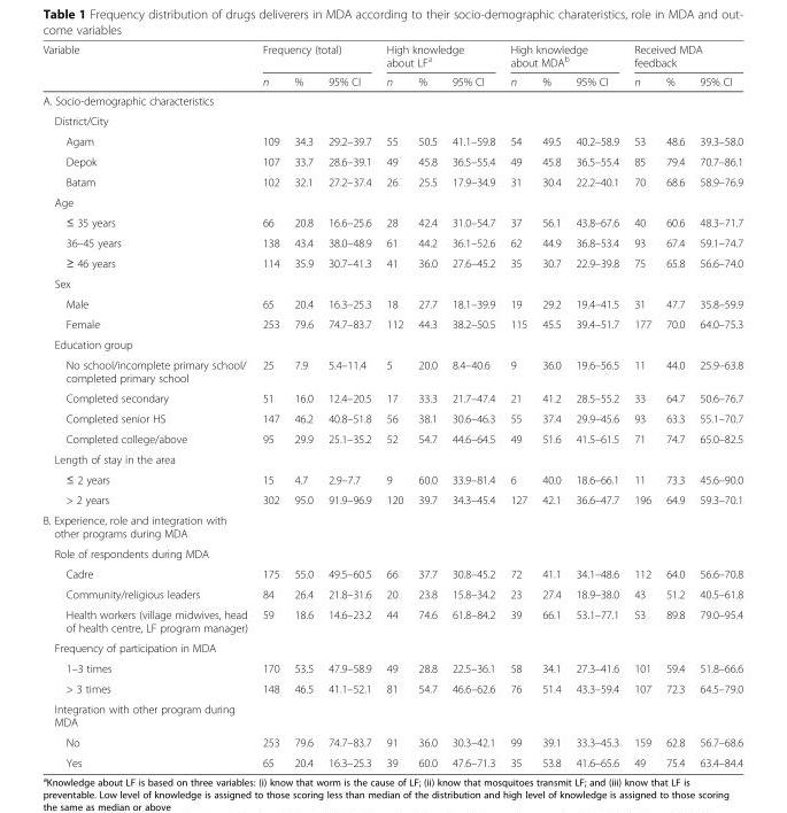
<table><thead><tr><td rowspan="2">Variable</td><td colspan="3">Frequency (total)</td><td colspan="3">High knowledge about LF<sup>a</sup></td><td colspan="3">High knowledge about MDA<sup>b</sup></td><td colspan="3">Received MDA feedback</td></tr><tr><td>n</td><td>%</td><td>95% CI</td><td>n</td><td>%</td><td>95% CI</td><td>n</td><td>%</td><td>95% CI</td><td>n</td><td>%</td><td>95% CI</td></tr></thead><tbody><tr><td colspan="13">A. Socio-demographic characteristics</td></tr><tr><td colspan="13">District/City</td></tr><tr><td>Agam</td><td>109</td><td>34.3</td><td>29.2–39.7</td><td>55</td><td>50.5</td><td>41.1–59.8</td><td>54</td><td>49.5</td><td>40.2–58.9</td><td>53</td><td>48.6</td><td>39.3–58.0</td></tr><tr><td>Depok</td><td>107</td><td>33.7</td><td>28.6–39.1</td><td>49</td><td>45.8</td><td>36.5–55.4</td><td>49</td><td>45.8</td><td>36.5–55.4</td><td>85</td><td>79.4</td><td>70.7–86.1</td></tr><tr><td>Batam</td><td>102</td><td>32.1</td><td>27.2–37.4</td><td>26</td><td>25.5</td><td>17.9–34.9</td><td>31</td><td>30.4</td><td>22.2–40.1</td><td>70</td><td>68.6</td><td>58.9–76.9</td></tr><tr><td colspan="13">Age</td></tr><tr><td>≤ 35 years</td><td>66</td><td>20.8</td><td>16.6–25.6</td><td>28</td><td>42.4</td><td>31.0–54.7</td><td>37</td><td>56.1</td><td>43.8–67.6</td><td>40</td><td>60.6</td><td>48.3–71.7</td></tr><tr><td>36–45 years</td><td>138</td><td>43.4</td><td>38.0–48.9</td><td>61</td><td>44.2</td><td>36.1–52.6</td><td>62</td><td>44.9</td><td>36.8–53.4</td><td>93</td><td>67.4</td><td>59.1–74.7</td></tr><tr><td>≥ 46 years</td><td>114</td><td>35.9</td><td>30.7–41.3</td><td>41</td><td>36.0</td><td>27.6–45.2</td><td>35</td><td>30.7</td><td>22.9–39.8</td><td>75</td><td>65.8</td><td>56.6–74.0</td></tr><tr><td colspan="13">Sex</td></tr><tr><td>Male</td><td>65</td><td>20.4</td><td>16.3–25.3</td><td>18</td><td>27.7</td><td>18.1–39.9</td><td>19</td><td>29.2</td><td>19.4–41.5</td><td>31</td><td>47.7</td><td>35.8–59.9</td></tr><tr><td>Female</td><td>253</td><td>79.6</td><td>74.7–83.7</td><td>112</td><td>44.3</td><td>38.2–50.5</td><td>115</td><td>45.5</td><td>39.4–51.7</td><td>177</td><td>70.0</td><td>64.0–75.3</td></tr><tr><td colspan="13">Education group</td></tr><tr><td>No school/incomplete primary school/ completed primary school</td><td>25</td><td>7.9</td><td>5.4–11.4</td><td>5</td><td>20.0</td><td>8.4–40.6</td><td>9</td><td>36.0</td><td>19.6–56.5</td><td>11</td><td>44.0</td><td>25.9–63.8</td></tr><tr><td>Completed secondary</td><td>51</td><td>16.0</td><td>12.4–20.5</td><td>17</td><td>33.3</td><td>21.7–47.4</td><td>21</td><td>41.2</td><td>28.5–55.2</td><td>33</td><td>64.7</td><td>50.6–76.7</td></tr><tr><td>Completed senior HS</td><td>147</td><td>46.2</td><td>40.8–51.8</td><td>56</td><td>38.1</td><td>30.6–46.3</td><td>55</td><td>37.4</td><td>29.9–45.6</td><td>93</td><td>63.3</td><td>55.1–70.7</td></tr><tr><td>Completed college/above</td><td>95</td><td>29.9</td><td>25.1–35.2</td><td>52</td><td>54.7</td><td>44.6–64.5</td><td>49</td><td>51.6</td><td>41.5–61.5</td><td>71</td><td>74.7</td><td>65.0–82.5</td></tr><tr><td colspan="13">Length of stay in the area</td></tr><tr><td>≤ 2 years</td><td>15</td><td>4.7</td><td>2.9–7.7</td><td>9</td><td>60.0</td><td>33.9–81.4</td><td>6</td><td>40.0</td><td>18.6–66.1</td><td>11</td><td>73.3</td><td>45.6–90.0</td></tr><tr><td>&gt; 2 years</td><td>302</td><td>95.0</td><td>91.9–96.9</td><td>120</td><td>39.7</td><td>34.3–45.4</td><td>127</td><td>42.1</td><td>36.6–47.7</td><td>196</td><td>64.9</td><td>59.3–70.1</td></tr><tr><td colspan="13">B. Experience, role and integration with other programs during MDA</td></tr><tr><td colspan="13">Role of respondents during MDA</td></tr><tr><td>Cadre</td><td>175</td><td>55.0</td><td>49.5–60.5</td><td>66</td><td>37.7</td><td>30.8–45.2</td><td>72</td><td>41.1</td><td>34.1–48.6</td><td>112</td><td>64.0</td><td>56.6–70.8</td></tr><tr><td>Community/religious leaders</td><td>84</td><td>26.4</td><td>21.8–31.6</td><td>20</td><td>23.8</td><td>15.8–34.2</td><td>23</td><td>27.4</td><td>18.9–38.0</td><td>43</td><td>51.2</td><td>40.5–61.8</td></tr><tr><td>Health workers (village midwives, head of health centre, LF program manager)</td><td>59</td><td>18.6</td><td>14.6–23.2</td><td>44</td><td>74.6</td><td>61.8–84.2</td><td>39</td><td>66.1</td><td>53.1–77.1</td><td>53</td><td>89.8</td><td>79.0–95.4</td></tr><tr><td colspan="13">Frequency of participation in MDA</td></tr><tr><td>1–3 times</td><td>170</td><td>53.5</td><td>47.9–58.9</td><td>49</td><td>28.8</td><td>22.5–36.1</td><td>58</td><td>34.1</td><td>27.3–41.6</td><td>101</td><td>59.4</td><td>51.8–66.6</td></tr><tr><td>&gt; 3 times</td><td>148</td><td>46.5</td><td>41.1–52.1</td><td>81</td><td>54.7</td><td>46.6–62.6</td><td>76</td><td>51.4</td><td>43.3–59.4</td><td>107</td><td>72.3</td><td>64.5–79.0</td></tr><tr><td colspan="13">Integration with other program during MDA</td></tr><tr><td>No</td><td>253</td><td>79.6</td><td>74.7–83.7</td><td>91</td><td>36.0</td><td>30.3–42.1</td><td>99</td><td>39.1</td><td>33.3–45.3</td><td>159</td><td>62.8</td><td>56.7–68.6</td></tr><tr><td>Yes</td><td>65</td><td>20.4</td><td>16.3–25.3</td><td>39</td><td>60.0</td><td>47.6–71.3</td><td>35</td><td>53.8</td><td>41.6–65.6</td><td>49</td><td>75.4</td><td>63.4–84.4</td></tr></tbody></table>